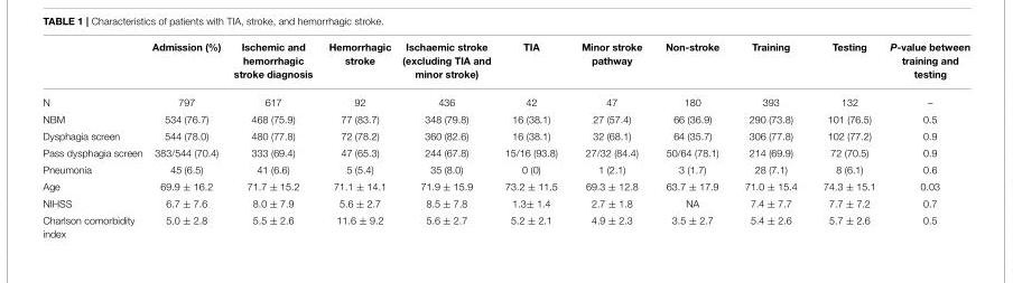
<table><thead><tr><td></td><td>Admission (%)</td><td>Ischemic and hemorrhagic stroke diagnosis</td><td>Hemorrhagic stroke</td><td>Ischaemic stroke (excluding TIA and minor stroke)</td><td>TIA</td><td>Minor stroke pathway</td><td>Non-stroke</td><td>Training</td><td>Testing</td><td>P-value between training and testing</td></tr></thead><tbody><tr><td>N</td><td>797</td><td>617</td><td>92</td><td>436</td><td>42</td><td>47</td><td>180</td><td>393</td><td>132</td><td>–</td></tr><tr><td>NBM</td><td>534 (76.7)</td><td>468 (75.9)</td><td>77 (83.7)</td><td>348 (79.8)</td><td>16 (38.1)</td><td>27 (57.4)</td><td>66 (36.9)</td><td>290 (73.8)</td><td>101 (76.5)</td><td>0.5</td></tr><tr><td>Dysphagia screen</td><td>544 (78.0)</td><td>480 (77.8)</td><td>72 (78.2)</td><td>360 (82.6)</td><td>16 (38.1)</td><td>32 (68.1)</td><td>64 (35.7)</td><td>306 (77.8)</td><td>102 (77.2)</td><td>0.9</td></tr><tr><td>Pass dysphagia screen</td><td>383/544 (70.4)</td><td>333 (69.4)</td><td>47 (65.3)</td><td>244 (67.8)</td><td>15/16 (93.8)</td><td>27/32 (84.4)</td><td>50/64 (78.1)</td><td>214 (69.9)</td><td>72 (70.5)</td><td>0.9</td></tr><tr><td>Pneumonia</td><td>45 (6.5)</td><td>41 (6.6)</td><td>5 (5.4)</td><td>35 (8.0)</td><td>0 (0)</td><td>1 (2.1)</td><td>3 (1.7)</td><td>28 (7.1)</td><td>8 (6.1)</td><td>0.6</td></tr><tr><td>Age</td><td>69.9 ± 16.2</td><td>71.7 ± 15.2</td><td>71.1 ± 14.1</td><td>71.9 ± 15.9</td><td>73.2 ± 11.5</td><td>69.3 ± 12.8</td><td>63.7 ± 17.9</td><td>71.0 ± 15.4</td><td>74.3 ± 15.1</td><td>0.03</td></tr><tr><td>NIHSS</td><td>6.7 ± 7.6</td><td>8.0 ± 7.9</td><td>5.6 ± 2.7</td><td>8.5 ± 7.8</td><td>1.3± 1.4</td><td>2.7 ± 1.8</td><td>NA</td><td>7.4 ± 7.7</td><td>7.7 ± 7.2</td><td>0.7</td></tr><tr><td>Charlson comorbidity index</td><td>5.0 ± 2.8</td><td>5.5 ± 2.6</td><td>11.6 ± 9.2</td><td>5.6 ± 2.7</td><td>5.2 ± 2.1</td><td>4.9 ± 2.3</td><td>3.5 ± 2.7</td><td>5.4 ± 2.6</td><td>5.7 ± 2.6</td><td>0.5</td></tr></tbody></table>